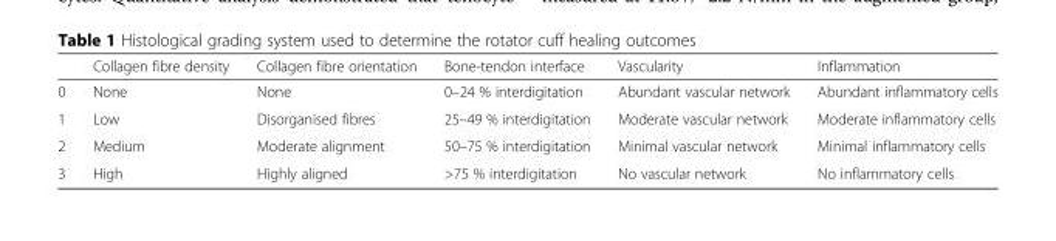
<table><thead><tr><td></td><td>Collagen fibre density</td><td>Collagen fibre orientation</td><td>Bone-tendon interface</td><td>Vascularity</td><td>Inflammation</td></tr></thead><tbody><tr><td>0</td><td>None</td><td>None</td><td>0–24 % interdigitation</td><td>Abundant vascular network</td><td>Abundant inflammatory cells</td></tr><tr><td>1</td><td>Low</td><td>Disorganised fibres</td><td>25–49 % interdigitation</td><td>Moderate vascular network</td><td>Moderate inflammatory cells</td></tr><tr><td>2</td><td>Medium</td><td>Moderate alignment</td><td>50–75 % interdigitation</td><td>Minimal vascular network</td><td>Minimal inflammatory cells</td></tr><tr><td>3</td><td>High</td><td>Highly aligned</td><td>&gt;75 % interdigitation</td><td>No vascular network</td><td>No inflammatory cells</td></tr></tbody></table>